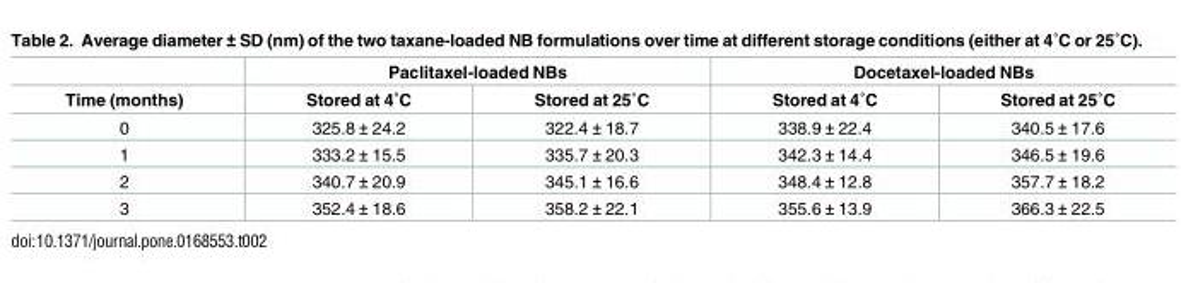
<table><thead><tr><td rowspan="2">Time (months)</td><td colspan="2">Paclitaxel-loaded NBs</td><td colspan="2">Docetaxel-loaded NBs</td></tr><tr><td>Stored at 4˚C</td><td>Stored at 25˚C</td><td>Stored at 4˚C</td><td>Stored at 25˚C</td></tr></thead><tbody><tr><td>0</td><td>325.8 ± 24.2</td><td>322.4 ± 18.7</td><td>338.9 ± 22.4</td><td>340.5 ± 17.6</td></tr><tr><td>1</td><td>333.2 ± 15.5</td><td>335.7 ± 20.3</td><td>342.3 ± 14.4</td><td>346.5 ± 19.6</td></tr><tr><td>2</td><td>340.7 ± 20.9</td><td>345.1 ± 16.6</td><td>348.4 ± 12.8</td><td>357.7 ± 18.2</td></tr><tr><td>3</td><td>352.4 ± 18.6</td><td>358.2 ± 22.1</td><td>355.6 ± 13.9</td><td>366.3 ± 22.5</td></tr></tbody></table>